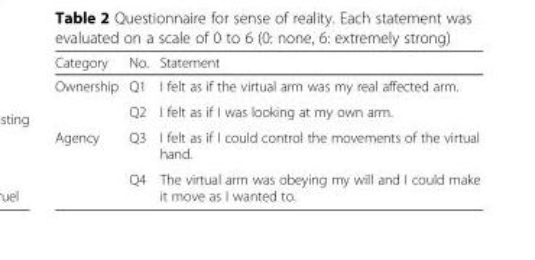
<table><thead><tr><td>Category</td><td>No.</td><td>Statement</td></tr></thead><tbody><tr><td rowspan="2">Ownership</td><td>Q1</td><td>I felt as if the virtual arm was my real affected arm.</td></tr><tr><td>Q2</td><td>I felt as if I was looking at my own arm.</td></tr><tr><td rowspan="2">Agency</td><td>Q3</td><td>I felt as if I could control the movements of the virtual hand.</td></tr><tr><td>Q4</td><td>The virtual arm was obeying my will and I could make it move as I wanted to.</td></tr></tbody></table>